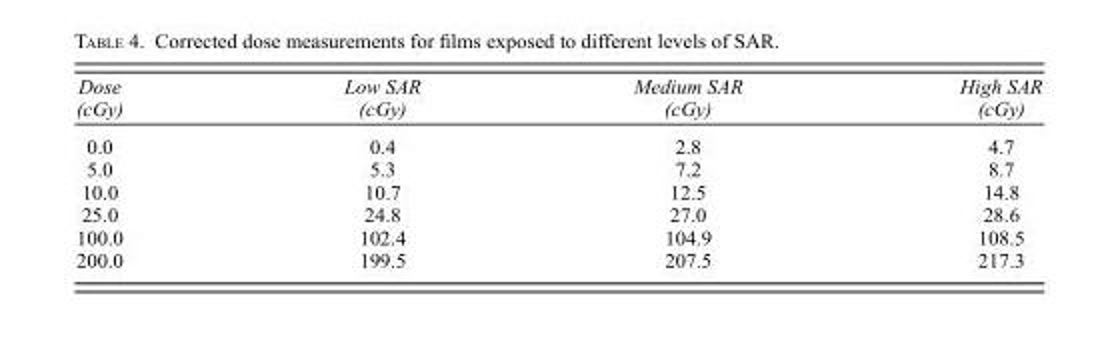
<table><thead><tr><td>Dose (cGy)</td><td>Low SAR (cGy)</td><td>Medium SAR (cGy)</td><td>High SAR (cGy)</td></tr></thead><tbody><tr><td>0.0</td><td>0.4</td><td>2.8</td><td>4.7</td></tr><tr><td>5.0</td><td>5.3</td><td>7.2</td><td>8.7</td></tr><tr><td>10.0</td><td>10.7</td><td>12.5</td><td>14.8</td></tr><tr><td>25.0</td><td>24.8</td><td>27.0</td><td>28.6</td></tr><tr><td>100.0</td><td>102.4</td><td>104.9</td><td>108.5</td></tr><tr><td>200.0</td><td>199.5</td><td>207.5</td><td>217.3</td></tr></tbody></table>